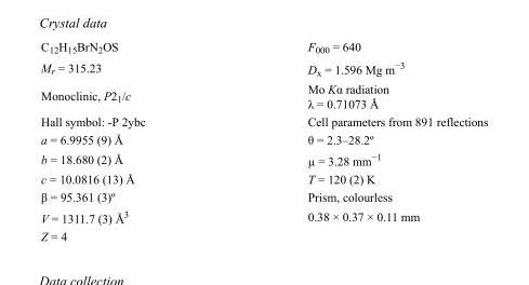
<table><tbody><tr><td>C<sub>12</sub>H<sub>15</sub>BrN<sub>2</sub>OS</td><td>F000 = 640</td></tr><tr><td>M<sub>r</sub> = 315.23</td><td>D<sub>x</sub> = 1.596 Mg m<sup>−3</sup></td></tr><tr><td>Monoclinic, P2<sub>1</sub>/c</td><td>Mo Kα radiation λ = 0.71073 Å</td></tr><tr><td>Hall symbol: -P 2ybc</td><td>Cell parameters from 891 reflections</td></tr><tr><td>a = 6.9955 (9) Å</td><td>θ = 2.3–28.2º</td></tr><tr><td>b = 18.680 (2) Å</td><td>µ = 3.28 mm<sup>−1</sup></td></tr><tr><td>c = 10.0816 (13) Å</td><td>T = 120 (2) K</td></tr><tr><td>β = 95.361 (3)º</td><td>Prism, colourless</td></tr><tr><td>V = 1311.7 (3) Å<sup>3</sup></td><td>0.38 × 0.37 × 0.11 mm</td></tr><tr><td>Z = 4</td><td></td></tr></tbody></table>